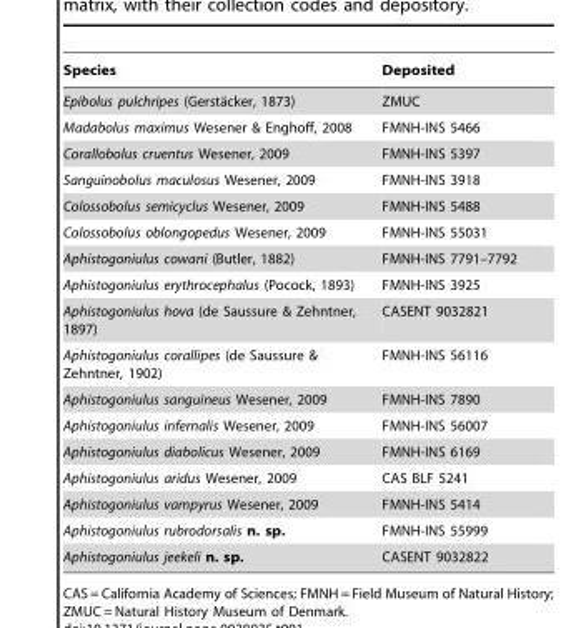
<table><thead><tr><td>Species</td><td>Deposited</td></tr></thead><tbody><tr><td>Epibolus pulchripes (Gersta¨cker, 1873)</td><td>ZMUC</td></tr><tr><td>Madabolus maximus Wesener &amp; Enghoff, 2008</td><td>FMNH-INS 5466</td></tr><tr><td>Corallobolus cruentus Wesener, 2009</td><td>FMNH-INS 5397</td></tr><tr><td>Sanguinobolus maculosus Wesener, 2009</td><td>FMNH-INS 3918</td></tr><tr><td>Colossobolus semicyclus Wesener, 2009</td><td>FMNH-INS 5488</td></tr><tr><td>Colossobolus oblongopedus Wesener, 2009</td><td>FMNH-INS 55031</td></tr><tr><td>Aphistogoniulus cowani (Butler, 1882)</td><td>FMNH-INS 7791–7792</td></tr><tr><td>Aphistogoniulus erythrocephalus (Pocock, 1893)</td><td>FMNH-INS 3925</td></tr><tr><td>Aphistogoniulus hova (de Saussure &amp; Zehntner, 1897)</td><td>CASENT 9032821</td></tr><tr><td>Aphistogoniulus corallipes (de Saussure &amp; Zehntner, 1902)</td><td>FMNH-INS 56116</td></tr><tr><td>Aphistogoniulus sanguineus Wesener, 2009</td><td>FMNH-INS 7890</td></tr><tr><td>Aphistogoniulus infernalis Wesener, 2009</td><td>FMNH-INS 56007</td></tr><tr><td>Aphistogoniulus diabolicus Wesener, 2009</td><td>FMNH-INS 6169</td></tr><tr><td>Aphistogoniulus aridus Wesener, 2009</td><td>CAS BLF 5241</td></tr><tr><td>Aphistogoniulus vampyrus Wesener, 2009</td><td>FMNH-INS 5414</td></tr><tr><td>Aphistogoniulus rubrodorsalis n. sp.</td><td>FMNH-INS 55999</td></tr><tr><td>Aphistogoniulus jeekeli n. sp.</td><td>CASENT 9032822</td></tr></tbody></table>